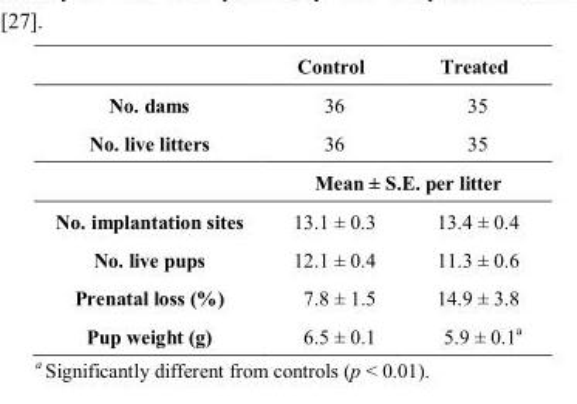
<table><thead><tr><td></td><td>Control</td><td>Treated</td></tr></thead><tbody><tr><td>No. dams</td><td>36</td><td>35</td></tr><tr><td rowspan="2">No. live litters</td><td>36</td><td>35</td></tr><tr><td colspan="2">Mean ± S.E. per litter</td></tr><tr><td>No. implantation sites</td><td>13.1 ± 0.3</td><td>13.4 ± 0.4</td></tr><tr><td>No. live pups</td><td>12.1 ± 0.4</td><td>11.3 ± 0.6</td></tr><tr><td>Prenatal loss (%)</td><td>7.8 ± 1.5</td><td>14.9 ± 3.8</td></tr><tr><td>Pup weight (g)</td><td>6.5 ± 0.1</td><td>5.9 ± 0.1<sup>a</sup></td></tr></tbody></table>